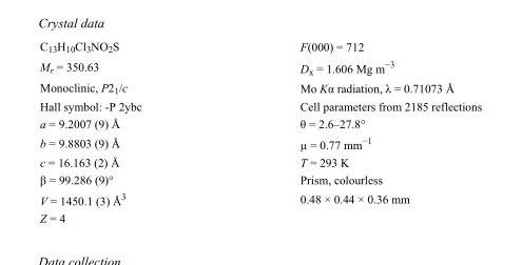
<table><tbody><tr><td>C<sub>13</sub>H<sub>10</sub>Cl<sub>3</sub>NO<sub>2</sub>S</td><td>F(000) = 712</td></tr><tr><td>M<sub>r</sub> = 350.63</td><td>D<sub>x</sub> = 1.606 Mg m<sup>−3</sup></td></tr><tr><td>Monoclinic, P2<sub>1</sub>/c</td><td>Mo Kα radiation, λ = 0.71073 Å</td></tr><tr><td>Hall symbol: -P 2ybc</td><td>Cell parameters from 2185 reflections</td></tr><tr><td>a = 9.2007 (9) Å</td><td>θ = 2.6–27.8°</td></tr><tr><td>b = 9.8803 (9) Å</td><td>µ = 0.77 mm<sup>−1</sup></td></tr><tr><td>c = 16.163 (2) Å</td><td>T = 293 K</td></tr><tr><td>β = 99.286 (9)°</td><td>Prism, colourless</td></tr><tr><td>V = 1450.1 (3) Å<sup>3</sup></td><td>0.48 × 0.44 × 0.36 mm</td></tr><tr><td>Z = 4</td><td></td></tr></tbody></table>